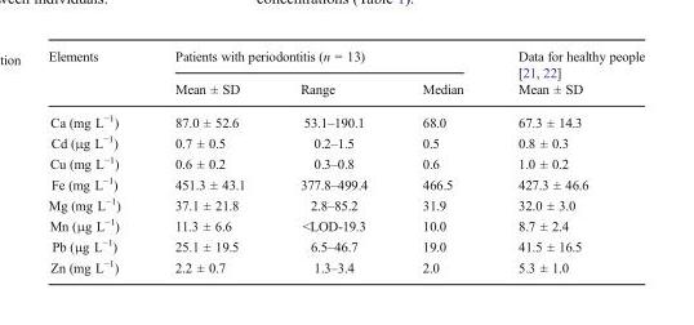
<table><thead><tr><td rowspan="2">Elements</td><td colspan="3">Patients with periodontitis (n = 13)</td><td rowspan="2">Data for healthy people [21, 22] Mean ± SD</td></tr><tr><td>Mean ± SD</td><td>Range</td><td>Median</td></tr></thead><tbody><tr><td>Ca (mg L<sup>−1</sup>)</td><td>87.0 ± 52.6</td><td>53.1–190.1</td><td>68.0</td><td>67.3 ± 14.3</td></tr><tr><td>Cd (μg L<sup>−1</sup>)</td><td>0.7 ± 0.5</td><td>0.2–1.5</td><td>0.5</td><td>0.8 ± 0.3</td></tr><tr><td>Cu (mg L<sup>−1</sup>)</td><td>0.6 ± 0.2</td><td>0.3–0.8</td><td>0.6</td><td>1.0 ± 0.2</td></tr><tr><td>Fe (mg L<sup>−1</sup>)</td><td>451.3 ± 43.1</td><td>377.8–499.4</td><td>466.5</td><td>427.3 ± 46.6</td></tr><tr><td>Mg (mg L<sup>−1</sup>)</td><td>37.1 ± 21.8</td><td>2.8–85.2</td><td>31.9</td><td>32.0 ± 3.0</td></tr><tr><td>Mn (μg L<sup>−1</sup>)</td><td>11.3 ± 6.6</td><td>&lt;LOD-19.3</td><td>10.0</td><td>8.7 ± 2.4</td></tr><tr><td>Pb (μg L<sup>−1</sup>)</td><td>25.1 ± 19.5</td><td>6.5–46.7</td><td>19.0</td><td>41.5 ± 16.5</td></tr><tr><td>Zn (mg L<sup>−1</sup>)</td><td>2.2 ± 0.7</td><td>1.3–3.4</td><td>2.0</td><td>5.3 ± 1.0</td></tr></tbody></table>